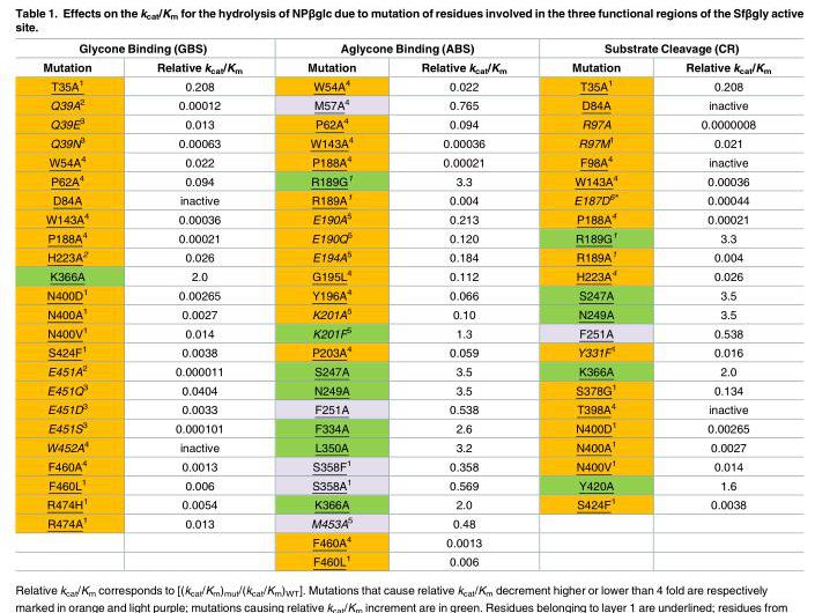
<table><thead><tr><td colspan="2">Glycone Binding (GBS)</td><td colspan="2">Aglycone Binding (ABS)</td><td colspan="2">Substrate Cleavage (CR)</td></tr><tr><td>Mutation</td><td>Relative k<sub>cat</sub>/K<sub>m</sub></td><td>Mutation</td><td>Relative k<sub>cat</sub>/K<sub>m</sub></td><td>Mutation</td><td>Relative k<sub>cat</sub>/K<sub>m</sub></td></tr></thead><tbody><tr><td>T35A<sup>1</sup></td><td>0.208</td><td>W54A<sup>4</sup></td><td>0.022</td><td>T35A<sup>1</sup></td><td>0.208</td></tr><tr><td>Q39A<sup>2</sup></td><td>0.00012</td><td>M57A<sup>4</sup></td><td>0.765</td><td>D84A</td><td>inactive</td></tr><tr><td>Q39E<sup>3</sup></td><td>0.013</td><td>P62A<sup>4</sup></td><td>0.094</td><td>R97A</td><td>0.0000008</td></tr><tr><td>Q39N<sup>3</sup></td><td>0.00063</td><td>W143A<sup>4</sup></td><td>0.00036</td><td>R97M<sup>1</sup></td><td>0.021</td></tr><tr><td>W54A<sup>4</sup></td><td>0.022</td><td>P188A<sup>4</sup></td><td>0.00021</td><td>F98A<sup>4</sup></td><td>inactive</td></tr><tr><td>P62A<sup>4</sup></td><td>0.094</td><td>R189G<sup>1</sup></td><td>3.3</td><td>W143A<sup>4</sup></td><td>0.00036</td></tr><tr><td>D84A</td><td>inactive</td><td>R189A<sup>1</sup></td><td>0.004</td><td>E187D<sup>6*</sup></td><td>0.00044</td></tr><tr><td>W143A<sup>4</sup></td><td>0.00036</td><td>E190A<sup>5</sup></td><td>0.213</td><td>P188A<sup>4</sup></td><td>0.00021</td></tr><tr><td>P188A<sup>4</sup></td><td>0.00021</td><td>E190Q<sup>5</sup></td><td>0.120</td><td>R189G<sup>1</sup></td><td>3.3</td></tr><tr><td>H223A<sup>2</sup></td><td>0.026</td><td>E194A<sup>5</sup></td><td>0.184</td><td>R189A<sup>1</sup></td><td>0.004</td></tr><tr><td>K366A</td><td>2.0</td><td>G195L<sup>4</sup></td><td>0.112</td><td>H223A<sup>4</sup></td><td>0.026</td></tr><tr><td>N400D<sup>1</sup></td><td>0.00265</td><td>Y196A<sup>4</sup></td><td>0.066</td><td>S247A</td><td>3.5</td></tr><tr><td>N400A<sup>1</sup></td><td>0.0027</td><td>K201A<sup>5</sup></td><td>0.10</td><td>N249A</td><td>3.5</td></tr><tr><td>N400V<sup>1</sup></td><td>0.014</td><td>K201F<sup>5</sup></td><td>1.3</td><td>F251A</td><td>0.538</td></tr><tr><td>S424F<sup>1</sup></td><td>0.0038</td><td>P203A<sup>4</sup></td><td>0.059</td><td>Y331F<sup>1</sup></td><td>0.016</td></tr><tr><td>E451A<sup>2</sup></td><td>0.000011</td><td>S247A</td><td>3.5</td><td>K366A</td><td>2.0</td></tr><tr><td>E451Q<sup>3</sup></td><td>0.0404</td><td>N249A</td><td>3.5</td><td>S378G<sup>1</sup></td><td>0.134</td></tr><tr><td>E451D<sup>3</sup></td><td>0.0033</td><td>F251A</td><td>0.538</td><td>T398A<sup>4</sup></td><td>inactive</td></tr><tr><td>E451S<sup>3</sup></td><td>0.000101</td><td>F334A</td><td>2.6</td><td>N400D<sup>1</sup></td><td>0.00265</td></tr><tr><td>W452A<sup>4</sup></td><td>inactive</td><td>L350A</td><td>3.2</td><td>N400A<sup>1</sup></td><td>0.0027</td></tr><tr><td>F460A<sup>4</sup></td><td>0.0013</td><td>S358F<sup>1</sup></td><td>0.358</td><td>N400V<sup>1</sup></td><td>0.014</td></tr><tr><td>F460L<sup>1</sup></td><td>0.006</td><td>S358A<sup>1</sup></td><td>0.569</td><td>Y420A</td><td>1.6</td></tr><tr><td>R474H<sup>1</sup></td><td>0.0054</td><td>K366A</td><td>2.0</td><td>S424F<sup>1</sup></td><td>0.0038</td></tr><tr><td rowspan="3">R474A<sup>1</sup></td><td>0.013</td><td>M453A<sup>5</sup></td><td>0.48</td><td></td><td></td></tr><tr><td></td><td>F460A<sup>4</sup></td><td>0.0013</td><td></td><td></td></tr><tr><td></td><td>F460L<sup>1</sup></td><td>0.006</td><td></td><td></td></tr></tbody></table>